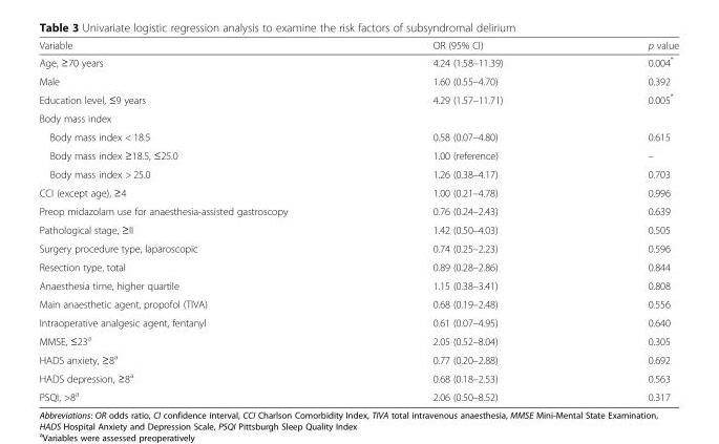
<table><thead><tr><td>Variable</td><td>OR (95% CI)</td><td>p value</td></tr></thead><tbody><tr><td>Age, ≥70 years</td><td>4.24 (1.58–11.39)</td><td>0.004*</td></tr><tr><td>Male</td><td>1.60 (0.55–4.70)</td><td>0.392</td></tr><tr><td>Education level, ≤9 years</td><td>4.29 (1.57–11.71)</td><td>0.005*</td></tr><tr><td colspan="3">Body mass index</td></tr><tr><td>Body mass index &lt; 18.5</td><td>0.58 (0.07–4.80)</td><td>0.615</td></tr><tr><td>Body mass index ≥18.5, ≤25.0</td><td>1.00 (reference)</td><td>–</td></tr><tr><td>Body mass index &gt; 25.0</td><td>1.26 (0.38–4.17)</td><td>0.703</td></tr><tr><td>CCI (except age), ≥4</td><td>1.00 (0.21–4.78)</td><td>0.996</td></tr><tr><td>Preop midazolam use for anaesthesia-assisted gastroscopy</td><td>0.76 (0.24–2.43)</td><td>0.639</td></tr><tr><td>Pathological stage, ≥II</td><td>1.42 (0.50–4.03)</td><td>0.505</td></tr><tr><td>Surgery procedure type, laparoscopic</td><td>0.74 (0.25–2.23)</td><td>0.596</td></tr><tr><td>Resection type, total</td><td>0.89 (0.28–2.86)</td><td>0.844</td></tr><tr><td>Anaesthesia time, higher quartile</td><td>1.15 (0.38–3.41)</td><td>0.808</td></tr><tr><td>Main anaesthetic agent, propofol (TIVA)</td><td>0.68 (0.19–2.48)</td><td>0.556</td></tr><tr><td>Intraoperative analgesic agent, fentanyl</td><td>0.61 (0.07–4.95)</td><td>0.640</td></tr><tr><td>MMSE, ≤23<sup>a</sup></td><td>2.05 (0.52–8.04)</td><td>0.305</td></tr><tr><td>HADS anxiety, ≥8<sup>a</sup></td><td>0.77 (0.20–2.88)</td><td>0.692</td></tr><tr><td>HADS depression, ≥8<sup>a</sup></td><td>0.68 (0.18–2.53)</td><td>0.563</td></tr><tr><td>PSQI, &gt;8<sup>a</sup></td><td>2.06 (0.50–8.52)</td><td>0.317</td></tr></tbody></table>